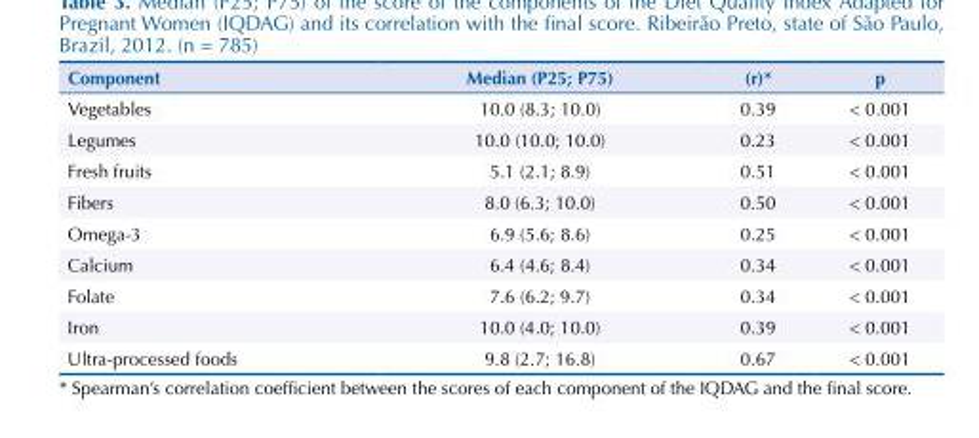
<table><thead><tr><td>Component</td><td>Median (P25; P75)</td><td>(r)*</td><td>p</td></tr></thead><tbody><tr><td>Vegetables</td><td>10.0 (8.3; 10.0)</td><td>0.39</td><td>&lt; 0.001</td></tr><tr><td>Legumes</td><td>10.0 (10.0; 10.0)</td><td>0.23</td><td>&lt; 0.001</td></tr><tr><td>Fresh fruits</td><td>5.1 (2.1; 8.9)</td><td>0.51</td><td>&lt; 0.001</td></tr><tr><td>Fibers</td><td>8.0 (6.3; 10.0)</td><td>0.50</td><td>&lt; 0.001</td></tr><tr><td>Omega-3</td><td>6.9 (5.6; 8.6)</td><td>0.25</td><td>&lt; 0.001</td></tr><tr><td>Calcium</td><td>6.4 (4.6; 8.4)</td><td>0.34</td><td>&lt; 0.001</td></tr><tr><td>Folate</td><td>7.6 (6.2; 9.7)</td><td>0.34</td><td>&lt; 0.001</td></tr><tr><td>Iron</td><td>10.0 (4.0; 10.0)</td><td>0.39</td><td>&lt; 0.001</td></tr><tr><td>Ultra-processed foods</td><td>9.8 (2.7; 16.8)</td><td>0.67</td><td>&lt; 0.001</td></tr></tbody></table>